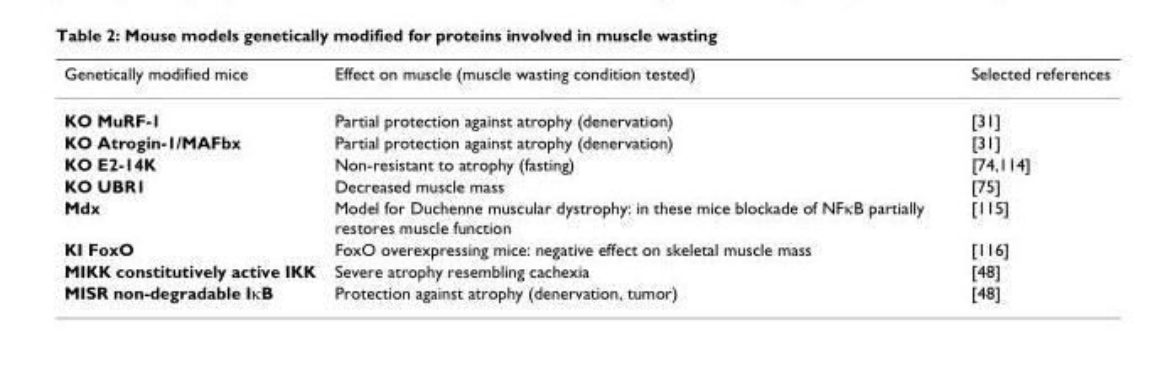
<table><thead><tr><td>Genetically modified mice</td><td>Effect on muscle (muscle wasting condition tested)</td><td>Selected references</td></tr></thead><tbody><tr><td>KO MuRF-1</td><td>Partial protection against atrophy (denervation)</td><td>[31]</td></tr><tr><td>KO Atrogin-1/MAFbx</td><td>Partial protection against atrophy (denervation)</td><td>[31]</td></tr><tr><td>KO E2-14K</td><td>Non-resistant to atrophy (fasting)</td><td>[74,114]</td></tr><tr><td>KO UBR1</td><td>Decreased muscle mass</td><td>[75]</td></tr><tr><td>Mdx</td><td>Model for Duchenne muscular dystrophy: in these mice blockade of NFκB partially restores muscle function</td><td>[115]</td></tr><tr><td>KI FoxO</td><td>FoxO overexpressing mice: negative effect on skeletal muscle mass</td><td>[116]</td></tr><tr><td>MIKK constitutively active IKK</td><td>Severe atrophy resembling cachexia</td><td>[48]</td></tr><tr><td>MISR non-degradable IκB</td><td>Protection against atrophy (denervation, tumor)</td><td>[48]</td></tr></tbody></table>